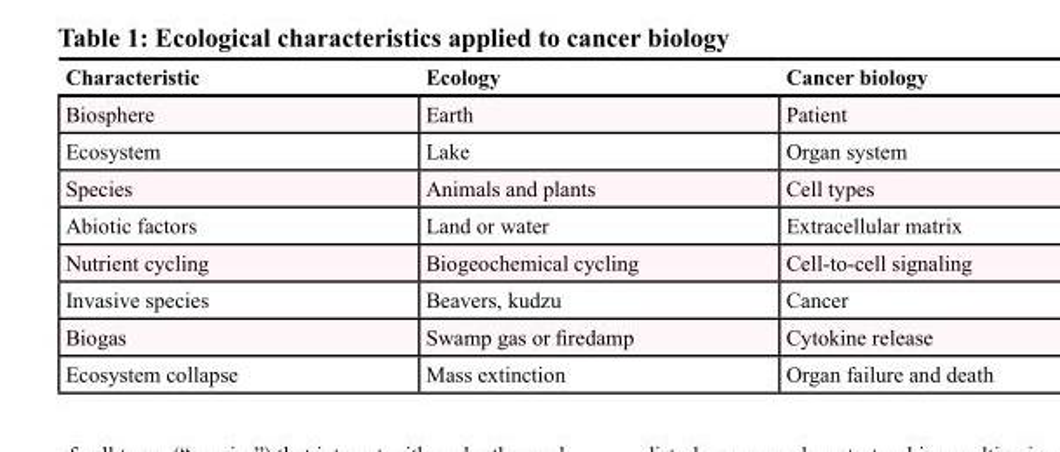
<table><thead><tr><td>Characteristic</td><td>Ecology</td><td>Cancer biology</td></tr></thead><tbody><tr><td>Biosphere</td><td>Earth</td><td>Patient</td></tr><tr><td>Ecosystem</td><td>Lake</td><td>Organ system</td></tr><tr><td>Species</td><td>Animals and plants</td><td>Cell types</td></tr><tr><td>Abiotic factors</td><td>Land or water</td><td>Extracellular matrix</td></tr><tr><td>Nutrient cycling</td><td>Biogeochemical cycling</td><td>Cell-to-cell signaling</td></tr><tr><td>Invasive species</td><td>Beavers, kudzu</td><td>Cancer</td></tr><tr><td>Biogas</td><td>Swamp gas or firedamp</td><td>Cytokine release</td></tr><tr><td>Ecosystem collapse</td><td>Mass extinction</td><td>Organ failure and death</td></tr></tbody></table>